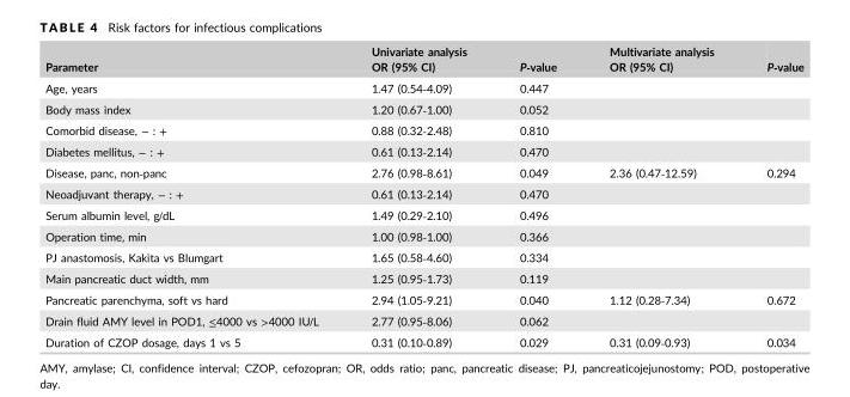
<table><thead><tr><td rowspan="2">Parameter</td><td rowspan="2">Univariate analysis OR (95% CI)</td><td rowspan="2">P‐value</td><td rowspan="2">Multivariate analysis OR (95% CI)</td><td rowspan="2">P‐value</td></tr><tr></tr></thead><tbody><tr><td>Age, years</td><td>1.47 (0.54‐4.09)</td><td>0.447</td><td></td><td></td></tr><tr><td>Body mass index</td><td>1.20 (0.67‐1.00)</td><td>0.052</td><td></td><td></td></tr><tr><td>Comorbid disease, − : +</td><td>0.88 (0.32‐2.48)</td><td>0.810</td><td></td><td></td></tr><tr><td>Diabetes mellitus, − : +</td><td>0.61 (0.13‐2.14)</td><td>0.470</td><td></td><td></td></tr><tr><td>Disease, panc, non‐panc</td><td>2.76 (0.98‐8.61)</td><td>0.049</td><td>2.36 (0.47‐12.59)</td><td>0.294</td></tr><tr><td>Neoadjuvant therapy, − : +</td><td>0.61 (0.13‐2.14)</td><td>0.470</td><td></td><td></td></tr><tr><td>Serum albumin level, g/dL</td><td>1.49 (0.29‐2.10)</td><td>0.496</td><td></td><td></td></tr><tr><td>Operation time, min</td><td>1.00 (0.98‐1.00)</td><td>0.366</td><td></td><td></td></tr><tr><td>PJ anastomosis, Kakita vs Blumgart</td><td>1.65 (0.58‐4.60)</td><td>0.334</td><td></td><td></td></tr><tr><td>Main pancreatic duct width, mm</td><td>1.25 (0.95‐1.73)</td><td>0.119</td><td></td><td></td></tr><tr><td>Pancreatic parenchyma, soft vs hard</td><td>2.94 (1.05‐9.21)</td><td>0.040</td><td>1.12 (0.28‐7.34)</td><td>0.672</td></tr><tr><td>Drain fluid AMY level in POD1, ≤4000 vs &gt;4000 IU/L</td><td>2.77 (0.95‐8.06)</td><td>0.062</td><td></td><td></td></tr><tr><td>Duration of CZOP dosage, days 1 vs 5</td><td>0.31 (0.10‐0.89)</td><td>0.029</td><td>0.31 (0.09‐0.93)</td><td>0.034</td></tr></tbody></table>